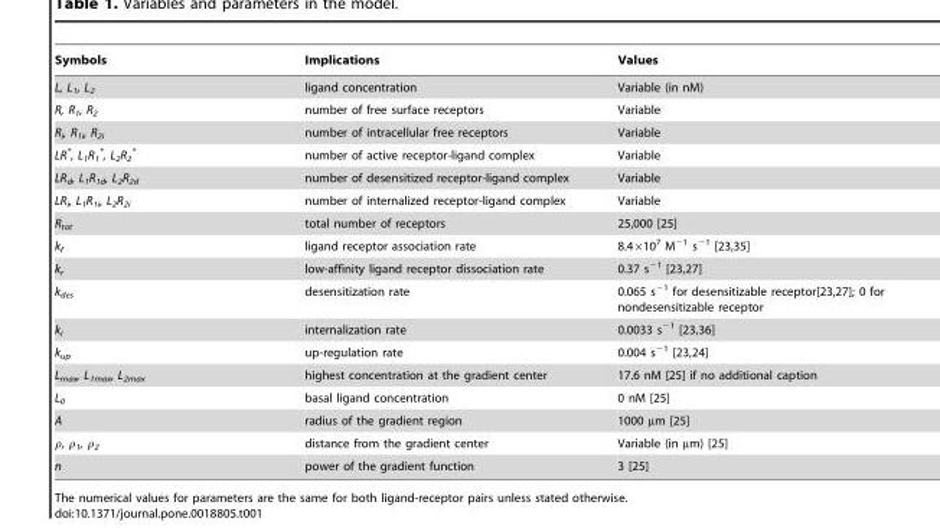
<table><thead><tr><td>Symbols</td><td>Implications</td><td>Values</td></tr></thead><tbody><tr><td>L, L<sub>1</sub>, L<sub>2</sub></td><td>ligand concentration</td><td>Variable (in nM)</td></tr><tr><td>R, R<sub>1</sub>, R<sub>2</sub></td><td>number of free surface receptors</td><td>Variable</td></tr><tr><td>R<sub>i</sub>, R<sub>1i</sub>, R<sub>2i</sub></td><td>number of intracellular free receptors</td><td>Variable</td></tr><tr><td>LR*, L<sub>1</sub>R<sub>1</sub> *, L<sub>2</sub>R<sub>2</sub> *</td><td>number of active receptor-ligand complex</td><td>Variable</td></tr><tr><td>LR<sub>d</sub>, L<sub>1</sub>R<sub>1d</sub>, L<sub>2</sub>R<sub>2d</sub></td><td>number of desensitized receptor-ligand complex</td><td>Variable</td></tr><tr><td>LR<sub>i</sub>, L<sub>1</sub>R<sub>1i</sub>, L<sub>2</sub>R<sub>2i</sub></td><td>number of internalized receptor-ligand complex</td><td>Variable</td></tr><tr><td>R<sub>tot</sub></td><td>total number of receptors</td><td>25,000 [25]</td></tr><tr><td>k<sub>f</sub></td><td>ligand receptor association rate</td><td>8.46107 M21 s21 [23,35]</td></tr><tr><td>k<sub>r</sub></td><td>low-affinity ligand receptor dissociation rate</td><td>0.37 s21 [23,27]</td></tr><tr><td>k<sub>des</sub></td><td>desensitization rate</td><td>0.065 s21 for desensitizable receptor[23,27]; 0 for nondesensitizable receptor</td></tr><tr><td>k<sub>i</sub></td><td>internalization rate</td><td>0.0033 s21 [23,36]</td></tr><tr><td>k<sub>up</sub></td><td>up-regulation rate</td><td>0.004 s21 [23,24]</td></tr><tr><td>L<sub>max</sub>, L<sub>1max</sub>, L<sub>2max</sub></td><td>highest concentration at the gradient center</td><td>17.6 nM [25] if no additional caption</td></tr><tr><td>L<sub>0</sub></td><td>basal ligand concentration</td><td>0 nM [25]</td></tr><tr><td>A</td><td>radius of the gradient region</td><td>1000 µm [25]</td></tr><tr><td>ρ, ρ<sub>1</sub>, ρ<sub>2</sub></td><td>distance from the gradient center</td><td>Variable (in µm) [25]</td></tr><tr><td>n</td><td>power of the gradient function</td><td>3 [25]</td></tr></tbody></table>